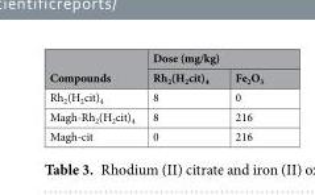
<table><thead><tr><td rowspan="2">Compounds</td><td colspan="2">Dose (mg/kg)</td></tr><tr><td>Rh<sub>2</sub>(H<sub>2</sub>cit)<sub>4</sub></td><td>Fe<sub>2</sub>O<sub>3</sub></td></tr></thead><tbody><tr><td>Rh<sub>2</sub>(H<sub>2</sub>cit)<sub>4</sub></td><td>8</td><td>0</td></tr><tr><td>Magh-Rh<sub>2</sub>(H<sub>2</sub>cit)<sub>4</sub></td><td>8</td><td>216</td></tr><tr><td>Magh-cit</td><td>0</td><td>216</td></tr></tbody></table>